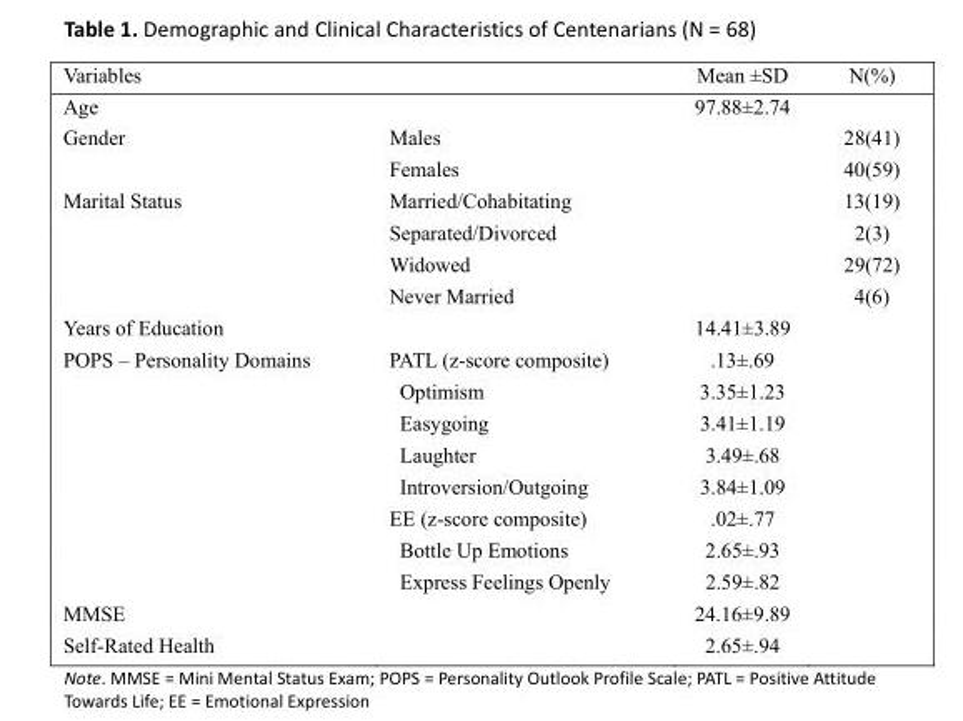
<table><thead><tr><td>Variables</td><td></td><td>Mean ±SD</td><td>N(%)</td></tr></thead><tbody><tr><td>Age</td><td></td><td>97.88±2.74</td><td></td></tr><tr><td rowspan="2">Gender</td><td>Males</td><td></td><td>28(41)</td></tr><tr><td>Females</td><td></td><td>40(59)</td></tr><tr><td rowspan="4">Marital Status</td><td>Married/Cohabitating</td><td></td><td>13(19)</td></tr><tr><td>Separated/Divorced</td><td></td><td>2(3)</td></tr><tr><td>Widowed</td><td></td><td>29(72)</td></tr><tr><td>Never Married</td><td></td><td>4(6)</td></tr><tr><td>Years of Education</td><td></td><td>14.41±3.89</td><td></td></tr><tr><td rowspan="8">POPS – Personality Domains</td><td>PATL (z-score composite)</td><td>.13±.69</td><td></td></tr><tr><td>Optimism</td><td>3.35±1.23</td><td></td></tr><tr><td>Easygoing</td><td>3.41±1.19</td><td></td></tr><tr><td>Laughter</td><td>3.49±.68</td><td></td></tr><tr><td>Introversion/Outgoing</td><td>3.84±1.09</td><td></td></tr><tr><td>EE (z-score composite)</td><td>.02±.77</td><td></td></tr><tr><td>Bottle Up Emotions</td><td>2.65±.93</td><td></td></tr><tr><td>Express Feelings Openly</td><td>2.59±.82</td><td></td></tr><tr><td>MMSE</td><td></td><td>24.16±9.89</td><td></td></tr><tr><td>Self-Rated Health</td><td></td><td>2.65±.94</td><td></td></tr></tbody></table>